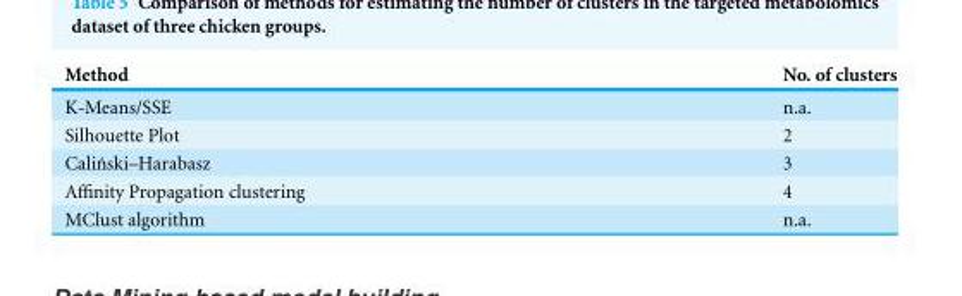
<table><thead><tr><td>Method</td><td>No. of clusters</td></tr></thead><tbody><tr><td>K-Means/SSE</td><td>n.a.</td></tr><tr><td>Silhouette Plot</td><td>2</td></tr><tr><td>Cali´nski–Harabasz</td><td>3</td></tr><tr><td>Affinity Propagation clustering</td><td>4</td></tr><tr><td>MClust algorithm</td><td>n.a.</td></tr></tbody></table>